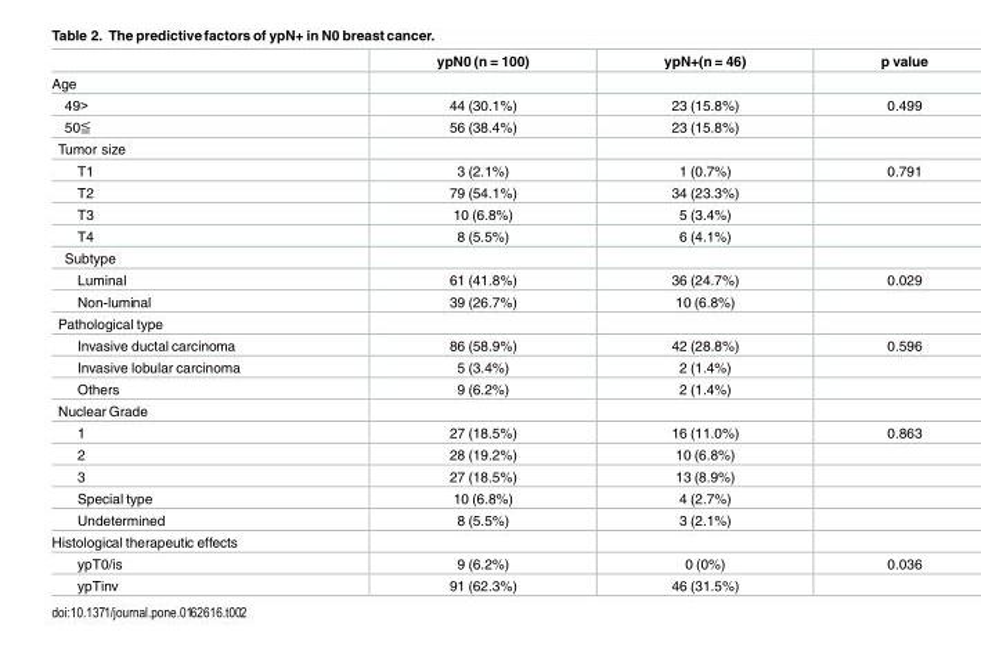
<table><thead><tr><td></td><td>ypN0 (n = 100)</td><td>ypN+(n = 46)</td><td>p value</td></tr></thead><tbody><tr><td colspan="4">Age</td></tr><tr><td>49&gt;</td><td>44 (30.1%)</td><td>23 (15.8%)</td><td>0.499</td></tr><tr><td>50≦</td><td>56 (38.4%)</td><td>23 (15.8%)</td><td></td></tr><tr><td colspan="4">Tumor size</td></tr><tr><td>T1</td><td>3 (2.1%)</td><td>1 (0.7%)</td><td>0.791</td></tr><tr><td>T2</td><td>79 (54.1%)</td><td>34 (23.3%)</td><td></td></tr><tr><td>T3</td><td>10 (6.8%)</td><td>5 (3.4%)</td><td></td></tr><tr><td>T4</td><td>8 (5.5%)</td><td>6 (4.1%)</td><td></td></tr><tr><td colspan="4">Subtype</td></tr><tr><td>Luminal</td><td>61 (41.8%)</td><td>36 (24.7%)</td><td>0.029</td></tr><tr><td>Non-luminal</td><td>39 (26.7%)</td><td>10 (6.8%)</td><td></td></tr><tr><td colspan="4">Pathological type</td></tr><tr><td>Invasive ductal carcinoma</td><td>86 (58.9%)</td><td>42 (28.8%)</td><td>0.596</td></tr><tr><td>Invasive lobular carcinoma</td><td>5 (3.4%)</td><td>2 (1.4%)</td><td></td></tr><tr><td>Others</td><td>9 (6.2%)</td><td>2 (1.4%)</td><td></td></tr><tr><td colspan="4">Nuclear Grade</td></tr><tr><td>1</td><td>27 (18.5%)</td><td>16 (11.0%)</td><td>0.863</td></tr><tr><td>2</td><td>28 (19.2%)</td><td>10 (6.8%)</td><td></td></tr><tr><td>3</td><td>27 (18.5%)</td><td>13 (8.9%)</td><td></td></tr><tr><td>Special type</td><td>10 (6.8%)</td><td>4 (2.7%)</td><td></td></tr><tr><td>Undetermined</td><td>8 (5.5%)</td><td>3 (2.1%)</td><td></td></tr><tr><td colspan="4">Histological therapeutic effects</td></tr><tr><td>ypT0/is</td><td>9 (6.2%)</td><td>0 (0%)</td><td>0.036</td></tr><tr><td>ypTinv</td><td>91 (62.3%)</td><td>46 (31.5%)</td><td></td></tr></tbody></table>